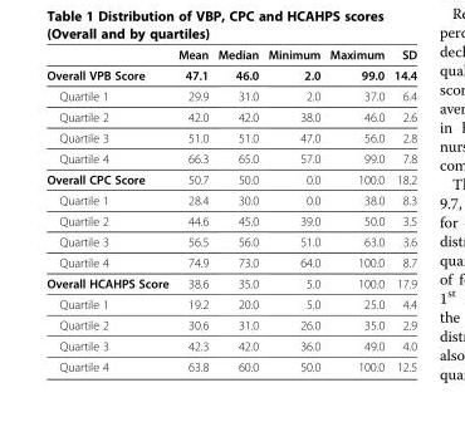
<table><thead><tr><td></td><td>Mean</td><td>Median</td><td>Minimum</td><td>Maximum</td><td>SD</td></tr></thead><tbody><tr><td>Overall VPB Score</td><td>47.1</td><td>46.0</td><td>2.0</td><td>99.0</td><td>14.4</td></tr><tr><td>Quartile 1</td><td>29.9</td><td>31.0</td><td>2.0</td><td>37.0</td><td>6.4</td></tr><tr><td>Quartile 2</td><td>42.0</td><td>42.0</td><td>38.0</td><td>46.0</td><td>2.6</td></tr><tr><td>Quartile 3</td><td>51.0</td><td>51.0</td><td>47.0</td><td>56.0</td><td>2.8</td></tr><tr><td>Quartile 4</td><td>66.3</td><td>65.0</td><td>57.0</td><td>99.0</td><td>7.8</td></tr><tr><td>Overall CPC Score</td><td>50.7</td><td>50.0</td><td>0.0</td><td>100.0</td><td>18.2</td></tr><tr><td>Quartile 1</td><td>28.4</td><td>30.0</td><td>0.0</td><td>38.0</td><td>8.3</td></tr><tr><td>Quartile 2</td><td>44.6</td><td>45.0</td><td>39.0</td><td>50.0</td><td>3.5</td></tr><tr><td>Quartile 3</td><td>56.5</td><td>56.0</td><td>51.0</td><td>63.0</td><td>3.6</td></tr><tr><td>Quartile 4</td><td>74.9</td><td>73.0</td><td>64.0</td><td>100.0</td><td>8.7</td></tr><tr><td>Overall HCAHPS Score</td><td>38.6</td><td>35.0</td><td>5.0</td><td>100.0</td><td>17.9</td></tr><tr><td>Quartile 1</td><td>19.2</td><td>20.0</td><td>5.0</td><td>25.0</td><td>4.4</td></tr><tr><td>Quartile 2</td><td>30.6</td><td>31.0</td><td>26.0</td><td>35.0</td><td>2.9</td></tr><tr><td>Quartile 3</td><td>42.3</td><td>42.0</td><td>36.0</td><td>49.0</td><td>4.0</td></tr><tr><td>Quartile 4</td><td>63.8</td><td>60.0</td><td>50.0</td><td>100.0</td><td>12.5</td></tr></tbody></table>